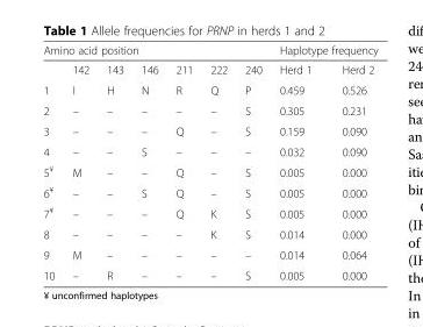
<table><thead><tr><td colspan="7">Amino acid position</td><td colspan="2">Haplotype frequency</td></tr><tr><td></td><td>142</td><td>143</td><td>146</td><td>211</td><td>222</td><td>240</td><td>Herd 1</td><td>Herd 2</td></tr></thead><tbody><tr><td>1</td><td>I</td><td>H</td><td>N</td><td>R</td><td>Q</td><td>P</td><td>0.459</td><td>0.526</td></tr><tr><td>2</td><td>–</td><td>–</td><td>–</td><td>–</td><td>–</td><td>S</td><td>0.305</td><td>0.231</td></tr><tr><td>3</td><td>–</td><td>–</td><td>–</td><td>Q</td><td>–</td><td>S</td><td>0.159</td><td>0.090</td></tr><tr><td>4</td><td>–</td><td>–</td><td>S</td><td>–</td><td>–</td><td>–</td><td>0.032</td><td>0.090</td></tr><tr><td>5<sup>¥</sup></td><td>M</td><td>–</td><td>–</td><td>Q</td><td>–</td><td>S</td><td>0.005</td><td>0.000</td></tr><tr><td>6<sup>¥</sup></td><td>–</td><td>–</td><td>S</td><td>Q</td><td>–</td><td>S</td><td>0.005</td><td>0.000</td></tr><tr><td>7<sup>¥</sup></td><td>–</td><td>–</td><td>–</td><td>Q</td><td>K</td><td>S</td><td>0.005</td><td>0.000</td></tr><tr><td>8</td><td>–</td><td>–</td><td>–</td><td>–</td><td>K</td><td>S</td><td>0.014</td><td>0.000</td></tr><tr><td>9</td><td>M</td><td>–</td><td>–</td><td>–</td><td>–</td><td>–</td><td>0.014</td><td>0.064</td></tr><tr><td>10</td><td>–</td><td>R</td><td>–</td><td>–</td><td>–</td><td>S</td><td>0.005</td><td>0.000</td></tr></tbody></table>